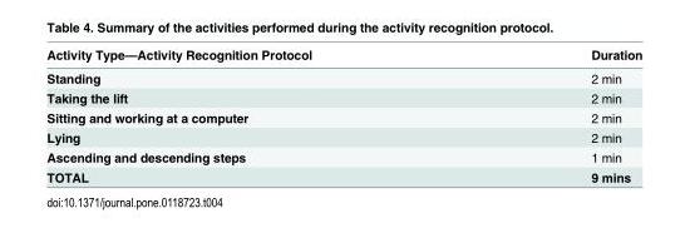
<table><thead><tr><td>Activity Type—Activity Recognition Protocol</td><td>Duration</td></tr></thead><tbody><tr><td>Standing</td><td>2 min</td></tr><tr><td>Taking the lift</td><td>2 min</td></tr><tr><td>Sitting and working at a computer</td><td>2 min</td></tr><tr><td>Lying</td><td>2 min</td></tr><tr><td>Ascending and descending steps</td><td>1 min</td></tr><tr><td>TOTAL</td><td>9 mins</td></tr></tbody></table>